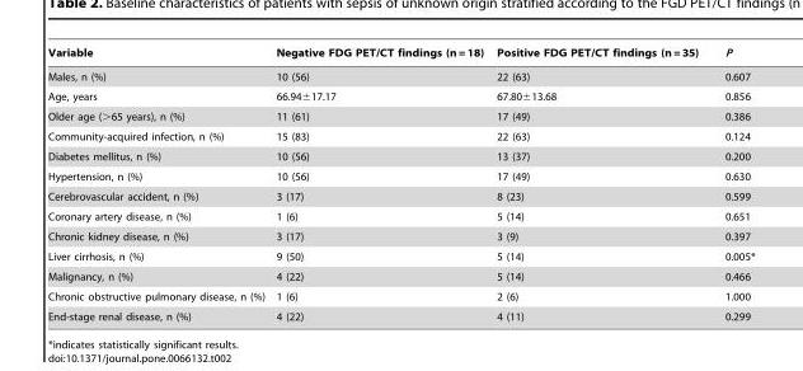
<table><thead><tr><td>Variable</td><td>Negative FDG PET/CT findings (n = 18)</td><td>Positive FDG PET/CT findings (n = 35)</td><td>P</td></tr></thead><tbody><tr><td>Males, n (%)</td><td>10 (56)</td><td>22 (63)</td><td>0.607</td></tr><tr><td>Age, years</td><td>66.94±17.17</td><td>67.80±13.68</td><td>0.856</td></tr><tr><td>Older age (&gt;65 years), n (%)</td><td>11 (61)</td><td>17 (49)</td><td>0.386</td></tr><tr><td>Community-acquired infection, n (%)</td><td>15 (83)</td><td>22 (63)</td><td>0.124</td></tr><tr><td>Diabetes mellitus, n (%)</td><td>10 (56)</td><td>13 (37)</td><td>0.200</td></tr><tr><td>Hypertension, n (%)</td><td>10 (56)</td><td>17 (49)</td><td>0.630</td></tr><tr><td>Cerebrovascular accident, n (%)</td><td>3 (17)</td><td>8 (23)</td><td>0.599</td></tr><tr><td>Coronary artery disease, n (%)</td><td>1 (6)</td><td>5 (14)</td><td>0.651</td></tr><tr><td>Chronic kidney disease, n (%)</td><td>3 (17)</td><td>3 (9)</td><td>0.397</td></tr><tr><td>Liver cirrhosis, n (%)</td><td>9 (50)</td><td>5 (14)</td><td>0.005*</td></tr><tr><td>Malignancy, n (%)</td><td>4 (22)</td><td>5 (14)</td><td>0.466</td></tr><tr><td>Chronic obstructive pulmonary disease, n (%)</td><td>1 (6)</td><td>2 (6)</td><td>1.000</td></tr><tr><td>End-stage renal disease, n (%)</td><td>4 (22)</td><td>4 (11)</td><td>0.299</td></tr></tbody></table>